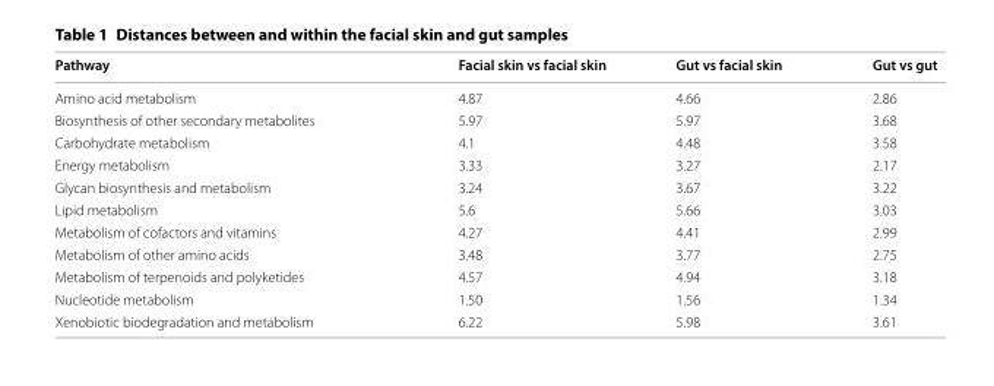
<table><thead><tr><td>Pathway</td><td>Facial skin vs facial skin</td><td>Gut vs facial skin</td><td>Gut vs gut</td></tr></thead><tbody><tr><td>Amino acid metabolism</td><td>4.87</td><td>4.66</td><td>2.86</td></tr><tr><td>Biosynthesis of other secondary metabolites</td><td>5.97</td><td>5.97</td><td>3.68</td></tr><tr><td>Carbohydrate metabolism</td><td>4.1</td><td>4.48</td><td>3.58</td></tr><tr><td>Energy metabolism</td><td>3.33</td><td>3.27</td><td>2.17</td></tr><tr><td>Glycan biosynthesis and metabolism</td><td>3.24</td><td>3.67</td><td>3.22</td></tr><tr><td>Lipid metabolism</td><td>5.6</td><td>5.66</td><td>3.03</td></tr><tr><td>Metabolism of cofactors and vitamins</td><td>4.27</td><td>4.41</td><td>2.99</td></tr><tr><td>Metabolism of other amino acids</td><td>3.48</td><td>3.77</td><td>2.75</td></tr><tr><td>Metabolism of terpenoids and polyketides</td><td>4.57</td><td>4.94</td><td>3.18</td></tr><tr><td>Nucleotide metabolism</td><td>1.50</td><td>1.56</td><td>1.34</td></tr><tr><td>Xenobiotic biodegradation and metabolism</td><td>6.22</td><td>5.98</td><td>3.61</td></tr></tbody></table>